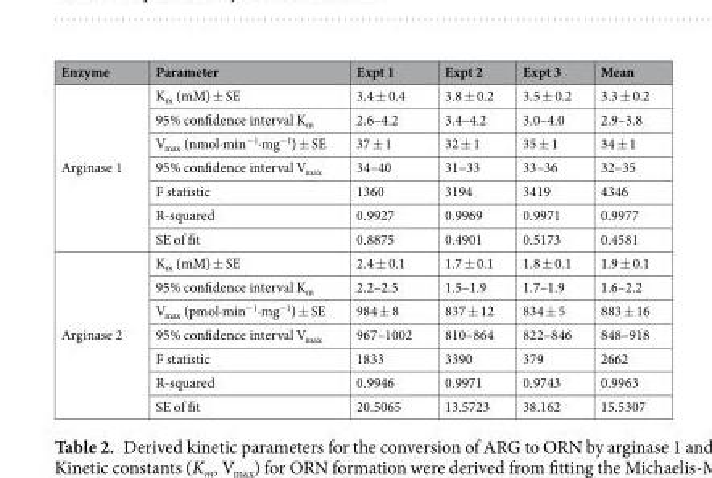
<table><thead><tr><td>Enzyme</td><td>Parameter</td><td>Expt 1</td><td>Expt 2</td><td>Expt 3</td><td>Mean</td></tr></thead><tbody><tr><td rowspan="7">Arginase 1</td><td>K<sub>m</sub> (mM) ± SE</td><td>3.4 ± 0.4</td><td>3.8 ± 0.2</td><td>3.5 ± 0.2</td><td>3.3 ± 0.2</td></tr><tr><td>95% confidence interval K<sub>m</sub></td><td>2.6–4.2</td><td>3.4–4.2</td><td>3.0–4.0</td><td>2.9–3.8</td></tr><tr><td>V<sub>max</sub> (nmol·min<sup>−1</sup>·mg<sup>−1</sup>) ± SE</td><td>37 ± 1</td><td>32 ± 1</td><td>35 ± 1</td><td>34 ± 1</td></tr><tr><td>95% confidence interval V<sub>max</sub></td><td>34–40</td><td>31–33</td><td>33–36</td><td>32–35</td></tr><tr><td>F statistic</td><td>1360</td><td>3194</td><td>3419</td><td>4346</td></tr><tr><td>R-squared</td><td>0.9927</td><td>0.9969</td><td>0.9971</td><td>0.9977</td></tr><tr><td>SE of fit</td><td>0.8875</td><td>0.4901</td><td>0.5173</td><td>0.4581</td></tr><tr><td rowspan="7">Arginase 2</td><td>K<sub>m</sub> (mM) ± SE</td><td>2.4 ± 0.1</td><td>1.7 ± 0.1</td><td>1.8 ± 0.1</td><td>1.9 ± 0.1</td></tr><tr><td>95% confidence interval K<sub>m</sub></td><td>2.2–2.5</td><td>1.5–1.9</td><td>1.7–1.9</td><td>1.6–2.2</td></tr><tr><td>V<sub>max</sub> (pmol·min<sup>−1</sup>·mg<sup>−1</sup>) ± SE</td><td>984 ± 8</td><td>837 ± 12</td><td>834 ± 5</td><td>883 ± 16</td></tr><tr><td>95% confidence interval V<sub>max</sub></td><td>967–1002</td><td>810–864</td><td>822–846</td><td>848–918</td></tr><tr><td>F statistic</td><td>1833</td><td>3390</td><td>379</td><td>2662</td></tr><tr><td>R-squared</td><td>0.9946</td><td>0.9971</td><td>0.9743</td><td>0.9963</td></tr><tr><td>SE of fit</td><td>20.5065</td><td>13.5723</td><td>38.162</td><td>15.5307</td></tr></tbody></table>